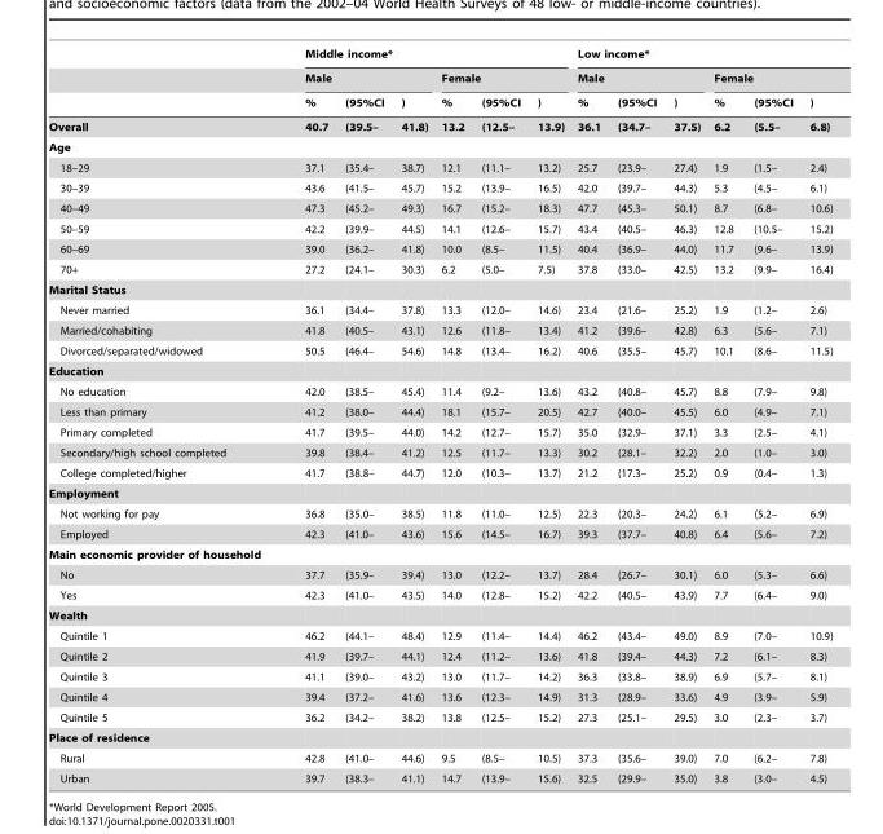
<table><thead><tr><td rowspan="3"></td><td colspan="6">Middle income*</td><td colspan="6">Low income*</td></tr><tr><td colspan="3">Male</td><td colspan="3">Female</td><td colspan="3">Male</td><td colspan="3">Female</td></tr><tr><td>%</td><td>(95%CI</td><td>)</td><td>%</td><td>(95%CI</td><td>)</td><td>%</td><td>(95%CI</td><td>)</td><td>%</td><td>(95%CI</td><td>)</td></tr></thead><tbody><tr><td>Overall</td><td>40.7</td><td>(39.5–</td><td>41.8)</td><td>13.2</td><td>(12.5–</td><td>13.9)</td><td>36.1</td><td>(34.7–</td><td>37.5)</td><td>6.2</td><td>(5.5–</td><td>6.8)</td></tr><tr><td colspan="13">Age</td></tr><tr><td>18–29</td><td>37.1</td><td>(35.4–</td><td>38.7)</td><td>12.1</td><td>(11.1–</td><td>13.2)</td><td>25.7</td><td>(23.9–</td><td>27.4)</td><td>1.9</td><td>(1.5–</td><td>2.4)</td></tr><tr><td>30–39</td><td>43.6</td><td>(41.5–</td><td>45.7)</td><td>15.2</td><td>(13.9–</td><td>16.5)</td><td>42.0</td><td>(39.7–</td><td>44.3)</td><td>5.3</td><td>(4.5–</td><td>6.1)</td></tr><tr><td>40–49</td><td>47.3</td><td>(45.2–</td><td>49.3)</td><td>16.7</td><td>(15.2–</td><td>18.3)</td><td>47.7</td><td>(45.3–</td><td>50.1)</td><td>8.7</td><td>(6.8–</td><td>10.6)</td></tr><tr><td>50–59</td><td>42.2</td><td>(39.9–</td><td>44.5)</td><td>14.1</td><td>(12.6–</td><td>15.7)</td><td>43.4</td><td>(40.5–</td><td>46.3)</td><td>12.8</td><td>(10.5–</td><td>15.2)</td></tr><tr><td>60–69</td><td>39.0</td><td>(36.2–</td><td>41.8)</td><td>10.0</td><td>(8.5–</td><td>11.5)</td><td>40.4</td><td>(36.9–</td><td>44.0)</td><td>11.7</td><td>(9.6–</td><td>13.9)</td></tr><tr><td>70+</td><td>27.2</td><td>(24.1–</td><td>30.3)</td><td>6.2</td><td>(5.0–</td><td>7.5)</td><td>37.8</td><td>(33.0–</td><td>42.5)</td><td>13.2</td><td>(9.9–</td><td>16.4)</td></tr><tr><td colspan="13">Marital Status</td></tr><tr><td>Never married</td><td>36.1</td><td>(34.4–</td><td>37.8)</td><td>13.3</td><td>(12.0–</td><td>14.6)</td><td>23.4</td><td>(21.6–</td><td>25.2)</td><td>1.9</td><td>(1.2–</td><td>2.6)</td></tr><tr><td>Married/cohabiting</td><td>41.8</td><td>(40.5–</td><td>43.1)</td><td>12.6</td><td>(11.8–</td><td>13.4)</td><td>41.2</td><td>(39.6–</td><td>42.8)</td><td>6.3</td><td>(5.6–</td><td>7.1)</td></tr><tr><td>Divorced/separated/widowed</td><td>50.5</td><td>(46.4–</td><td>54.6)</td><td>14.8</td><td>(13.4–</td><td>16.2)</td><td>40.6</td><td>(35.5–</td><td>45.7)</td><td>10.1</td><td>(8.6–</td><td>11.5)</td></tr><tr><td colspan="13">Education</td></tr><tr><td>No education</td><td>42.0</td><td>(38.5–</td><td>45.4)</td><td>11.4</td><td>(9.2–</td><td>13.6)</td><td>43.2</td><td>(40.8–</td><td>45.7)</td><td>8.8</td><td>(7.9–</td><td>9.8)</td></tr><tr><td>Less than primary</td><td>41.2</td><td>(38.0–</td><td>44.4)</td><td>18.1</td><td>(15.7–</td><td>20.5)</td><td>42.7</td><td>(40.0–</td><td>45.5)</td><td>6.0</td><td>(4.9–</td><td>7.1)</td></tr><tr><td>Primary completed</td><td>41.7</td><td>(39.5–</td><td>44.0)</td><td>14.2</td><td>(12.7–</td><td>15.7)</td><td>35.0</td><td>(32.9–</td><td>37.1)</td><td>3.3</td><td>(2.5–</td><td>4.1)</td></tr><tr><td>Secondary/high school completed</td><td>39.8</td><td>(38.4–</td><td>41.2)</td><td>12.5</td><td>(11.7–</td><td>13.3)</td><td>30.2</td><td>(28.1–</td><td>32.2)</td><td>2.0</td><td>(1.0–</td><td>3.0)</td></tr><tr><td>College completed/higher</td><td>41.7</td><td>(38.8–</td><td>44.7)</td><td>12.0</td><td>(10.3–</td><td>13.7)</td><td>21.2</td><td>(17.3–</td><td>25.2)</td><td>0.9</td><td>(0.4–</td><td>1.3)</td></tr><tr><td colspan="13">Employment</td></tr><tr><td>Not working for pay</td><td>36.8</td><td>(35.0–</td><td>38.5)</td><td>11.8</td><td>(11.0–</td><td>12.5)</td><td>22.3</td><td>(20.3–</td><td>24.2)</td><td>6.1</td><td>(5.2–</td><td>6.9)</td></tr><tr><td>Employed</td><td>42.3</td><td>(41.0–</td><td>43.6)</td><td>15.6</td><td>(14.5–</td><td>16.7)</td><td>39.3</td><td>(37.7–</td><td>40.8)</td><td>6.4</td><td>(5.6–</td><td>7.2)</td></tr><tr><td colspan="13">Main economic provider of household</td></tr><tr><td>No</td><td>37.7</td><td>(35.9–</td><td>39.4)</td><td>13.0</td><td>(12.2–</td><td>13.7)</td><td>28.4</td><td>(26.7–</td><td>30.1)</td><td>6.0</td><td>(5.3–</td><td>6.6)</td></tr><tr><td>Yes</td><td>42.3</td><td>(41.0–</td><td>43.5)</td><td>14.0</td><td>(12.8–</td><td>15.2)</td><td>42.2</td><td>(40.5–</td><td>43.9)</td><td>7.7</td><td>(6.4–</td><td>9.0)</td></tr><tr><td colspan="13">Wealth</td></tr><tr><td>Quintile 1</td><td>46.2</td><td>(44.1–</td><td>48.4)</td><td>12.9</td><td>(11.4–</td><td>14.4)</td><td>46.2</td><td>(43.4–</td><td>49.0)</td><td>8.9</td><td>(7.0–</td><td>10.9)</td></tr><tr><td>Quintile 2</td><td>41.9</td><td>(39.7–</td><td>44.1)</td><td>12.4</td><td>(11.2–</td><td>13.6)</td><td>41.8</td><td>(39.4–</td><td>44.3)</td><td>7.2</td><td>(6.1–</td><td>8.3)</td></tr><tr><td>Quintile 3</td><td>41.1</td><td>(39.0–</td><td>43.2)</td><td>13.0</td><td>(11.7–</td><td>14.2)</td><td>36.3</td><td>(33.8–</td><td>38.9)</td><td>6.9</td><td>(5.7–</td><td>8.1)</td></tr><tr><td>Quintile 4</td><td>39.4</td><td>(37.2–</td><td>41.6)</td><td>13.6</td><td>(12.3–</td><td>14.9)</td><td>31.3</td><td>(28.9–</td><td>33.6)</td><td>4.9</td><td>(3.9–</td><td>5.9)</td></tr><tr><td>Quintile 5</td><td>36.2</td><td>(34.2–</td><td>38.2)</td><td>13.8</td><td>(12.5–</td><td>15.2)</td><td>27.3</td><td>(25.1–</td><td>29.5)</td><td>3.0</td><td>(2.3–</td><td>3.7)</td></tr><tr><td colspan="13">Place of residence</td></tr><tr><td>Rural</td><td>42.8</td><td>(41.0–</td><td>44.6)</td><td>9.5</td><td>(8.5–</td><td>10.5)</td><td>37.3</td><td>(35.6–</td><td>39.0)</td><td>7.0</td><td>(6.2–</td><td>7.8)</td></tr><tr><td>Urban</td><td>39.7</td><td>(38.3–</td><td>41.1)</td><td>14.7</td><td>(13.9–</td><td>15.6)</td><td>32.5</td><td>(29.9–</td><td>35.0)</td><td>3.8</td><td>(3.0–</td><td>4.5)</td></tr></tbody></table>